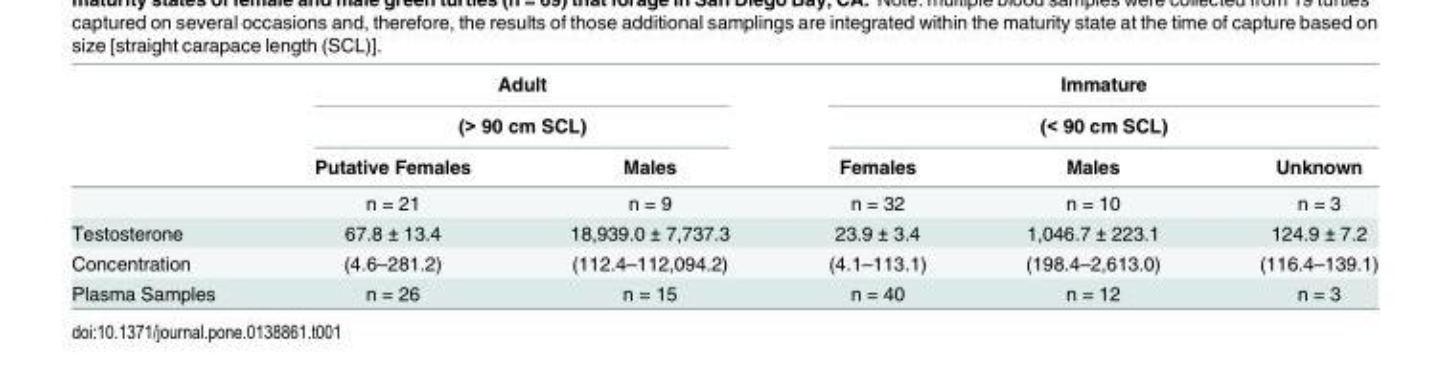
<table><thead><tr><td rowspan="3"></td><td rowspan="2" colspan="2">Adult (&gt; 90 cm SCL)</td><td rowspan="2" colspan="3">Immature (&lt; 90 cm SCL)</td></tr><tr></tr><tr><td>Putative Females</td><td>Males</td><td>Females</td><td>Males</td><td>Unknown</td></tr></thead><tbody><tr><td></td><td>n = 21</td><td>n = 9</td><td>n = 32</td><td>n = 10</td><td>n = 3</td></tr><tr><td>Testosterone</td><td>67.8 ± 13.4</td><td>18,939.0 ± 7,737.3</td><td>23.9 ± 3.4</td><td>1,046.7 ± 223.1</td><td>124.9 ± 7.2</td></tr><tr><td>Concentration</td><td>(4.6–281.2)</td><td>(112.4–112,094.2)</td><td>(4.1–113.1)</td><td>(198.4–2,613.0)</td><td>(116.4–139.1)</td></tr><tr><td>Plasma Samples</td><td>n = 26</td><td>n = 15</td><td>n = 40</td><td>n = 12</td><td>n = 3</td></tr></tbody></table>